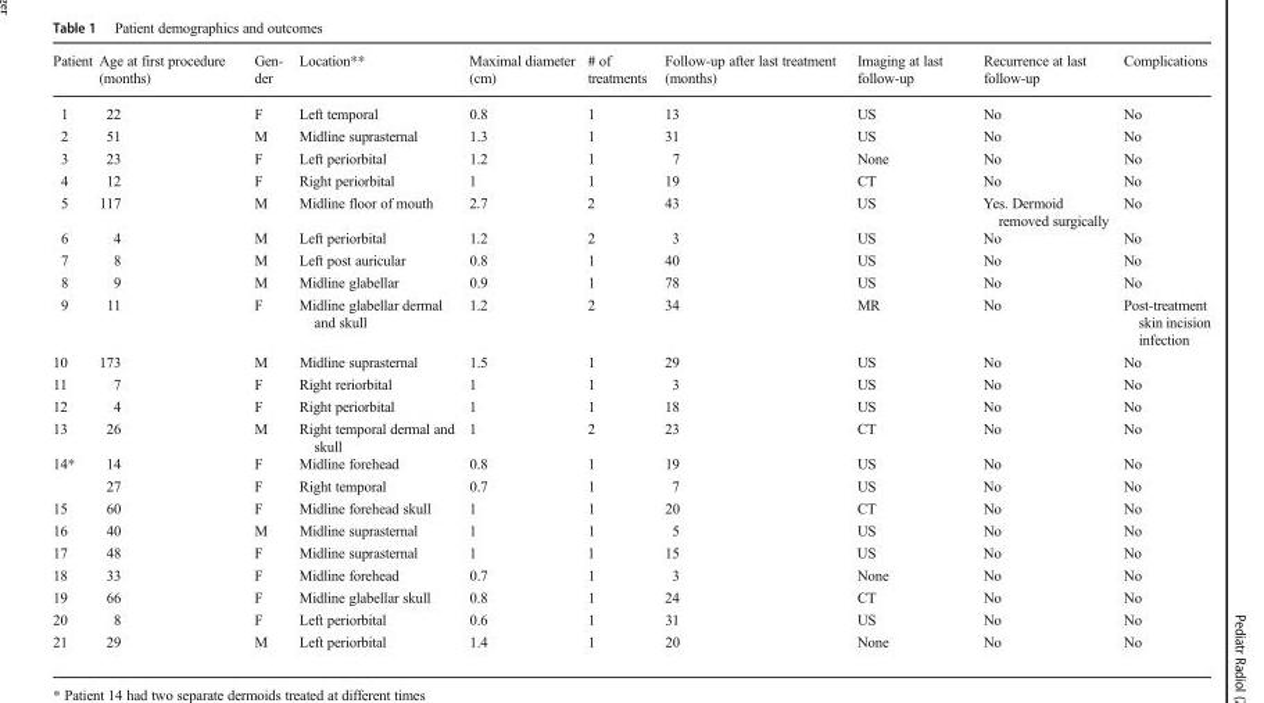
<table><thead><tr><td>Patient</td><td>Age at first procedure (months)</td><td>Gen- der</td><td>Location**</td><td>Maximal diameter (cm)</td><td># of treatments</td><td>Follow-up after last treatment (months)</td><td>Imaging at last follow-up</td><td>Recurrence at last follow-up</td><td>Complications</td></tr></thead><tbody><tr><td>1</td><td>22</td><td>F</td><td>Left temporal</td><td>0.8</td><td>1</td><td>13</td><td>US</td><td>No</td><td>No</td></tr><tr><td>2</td><td>51</td><td>M</td><td>Midline suprasternal</td><td>1.3</td><td>1</td><td>31</td><td>US</td><td>No</td><td>No</td></tr><tr><td>3</td><td>23</td><td>F</td><td>Left periorbital</td><td>1.2</td><td>1</td><td>7</td><td>None</td><td>No</td><td>No</td></tr><tr><td>4</td><td>12</td><td>F</td><td>Right periorbital</td><td>1</td><td>1</td><td>19</td><td>CT</td><td>No</td><td>No</td></tr><tr><td>5</td><td>117</td><td>M</td><td>Midline floor of mouth</td><td>2.7</td><td>2</td><td>43</td><td>US</td><td>Yes. Dermoid removed surgically</td><td>No</td></tr><tr><td>6</td><td>4</td><td>M</td><td>Left periorbital</td><td>1.2</td><td>2</td><td>3</td><td>US</td><td>No</td><td>No</td></tr><tr><td>7</td><td>8</td><td>M</td><td>Left post auricular</td><td>0.8</td><td>1</td><td>40</td><td>US</td><td>No</td><td>No</td></tr><tr><td>8</td><td>9</td><td>M</td><td>Midline glabellar</td><td>0.9</td><td>1</td><td>78</td><td>US</td><td>No</td><td>No</td></tr><tr><td>9</td><td>11</td><td>F</td><td>Midline glabellar dermal and skull</td><td>1.2</td><td>2</td><td>34</td><td>MR</td><td>No</td><td>Post-treatment skin incision infection</td></tr><tr><td>10</td><td>173</td><td>M</td><td>Midline suprasternal</td><td>1.5</td><td>1</td><td>29</td><td>US</td><td>No</td><td>No</td></tr><tr><td>11</td><td>7</td><td>F</td><td>Right reriorbital</td><td>1</td><td>1</td><td>3</td><td>US</td><td>No</td><td>No</td></tr><tr><td>12</td><td>4</td><td>F</td><td>Right periorbital</td><td>1</td><td>1</td><td>18</td><td>US</td><td>No</td><td>No</td></tr><tr><td>13</td><td>26</td><td>M</td><td>Right temporal dermal and skull</td><td>1</td><td>2</td><td>23</td><td>CT</td><td>No</td><td>No</td></tr><tr><td rowspan="2">14*</td><td>14</td><td>F</td><td>Midline forehead</td><td>0.8</td><td>1</td><td>19</td><td>US</td><td>No</td><td>No</td></tr><tr><td>27</td><td>F</td><td>Right temporal</td><td>0.7</td><td>1</td><td>7</td><td>US</td><td>No</td><td>No</td></tr><tr><td>15</td><td>60</td><td>F</td><td>Midline forehead skull</td><td>1</td><td>1</td><td>20</td><td>CT</td><td>No</td><td>No</td></tr><tr><td>16</td><td>40</td><td>M</td><td>Midline suprasternal</td><td>1</td><td>1</td><td>5</td><td>US</td><td>No</td><td>No</td></tr><tr><td>17</td><td>48</td><td>F</td><td>Midline suprasternal</td><td>1</td><td>1</td><td>15</td><td>US</td><td>No</td><td>No</td></tr><tr><td>18</td><td>33</td><td>F</td><td>Midline forehead</td><td>0.7</td><td>1</td><td>3</td><td>None</td><td>No</td><td>No</td></tr><tr><td>19</td><td>66</td><td>F</td><td>Midline glabellar skull</td><td>0.8</td><td>1</td><td>24</td><td>CT</td><td>No</td><td>No</td></tr><tr><td>20</td><td>8</td><td>F</td><td>Left periorbital</td><td>0.6</td><td>1</td><td>31</td><td>US</td><td>No</td><td>No</td></tr><tr><td>21</td><td>29</td><td>M</td><td>Left periorbital</td><td>1.4</td><td>1</td><td>20</td><td>None</td><td>No</td><td>No</td></tr></tbody></table>